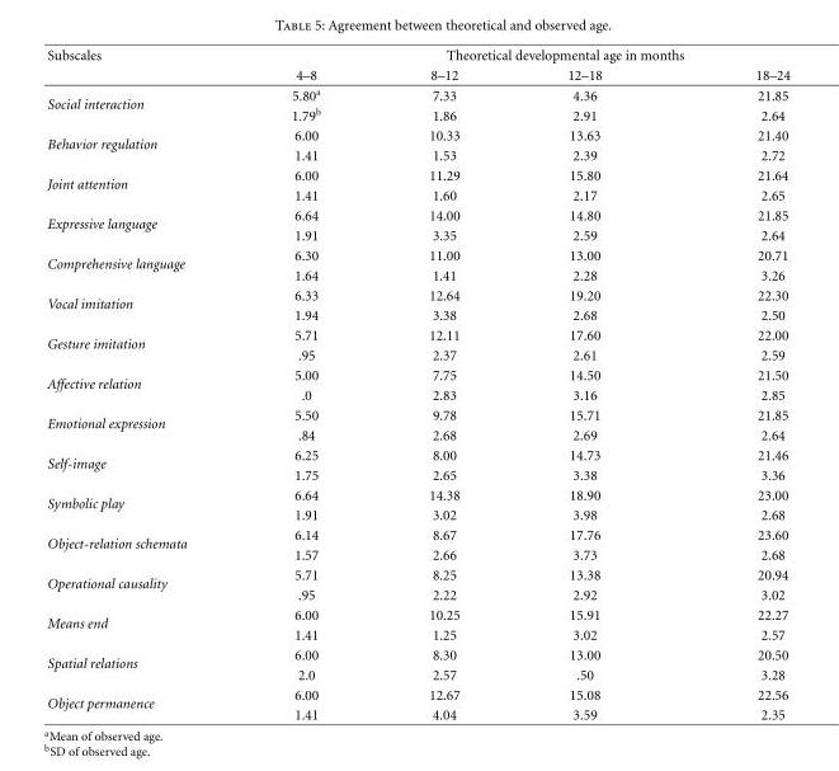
<table><thead><tr><td rowspan="2">Subscales</td><td colspan="4">Theoretical developmental age in months</td></tr><tr><td>4–8</td><td>8–12</td><td>12–18</td><td>18–24</td></tr></thead><tbody><tr><td rowspan="2">Social interaction</td><td>5.80<sup>a</sup></td><td>7.33</td><td>4.36</td><td>21.85</td></tr><tr><td>1.79<sup>b</sup></td><td>1.86</td><td>2.91</td><td>2.64</td></tr><tr><td rowspan="2">Behavior regulation</td><td>6.00</td><td>10.33</td><td>13.63</td><td>21.40</td></tr><tr><td>1.41</td><td>1.53</td><td>2.39</td><td>2.72</td></tr><tr><td rowspan="2">Joint attention</td><td>6.00</td><td>11.29</td><td>15.80</td><td>21.64</td></tr><tr><td>1.41</td><td>1.60</td><td>2.17</td><td>2.65</td></tr><tr><td rowspan="2">Expressive language</td><td>6.64</td><td>14.00</td><td>14.80</td><td>21.85</td></tr><tr><td>1.91</td><td>3.35</td><td>2.59</td><td>2.64</td></tr><tr><td rowspan="2">Comprehensive language</td><td>6.30</td><td>11.00</td><td>13.00</td><td>20.71</td></tr><tr><td>1.64</td><td>1.41</td><td>2.28</td><td>3.26</td></tr><tr><td rowspan="2">Vocal imitation</td><td>6.33</td><td>12.64</td><td>19.20</td><td>22.30</td></tr><tr><td>1.94</td><td>3.38</td><td>2.68</td><td>2.50</td></tr><tr><td rowspan="2">Gesture imitation</td><td>5.71</td><td>12.11</td><td>17.60</td><td>22.00</td></tr><tr><td>.95</td><td>2.37</td><td>2.61</td><td>2.59</td></tr><tr><td rowspan="2">Affective relation</td><td>5.00</td><td>7.75</td><td>14.50</td><td>21.50</td></tr><tr><td>.0</td><td>2.83</td><td>3.16</td><td>2.85</td></tr><tr><td rowspan="2">Emotional expression</td><td>5.50</td><td>9.78</td><td>15.71</td><td>21.85</td></tr><tr><td>.84</td><td>2.68</td><td>2.69</td><td>2.64</td></tr><tr><td rowspan="2">Self-image</td><td>6.25</td><td>8.00</td><td>14.73</td><td>21.46</td></tr><tr><td>1.75</td><td>2.65</td><td>3.38</td><td>3.36</td></tr><tr><td rowspan="2">Symbolic play</td><td>6.64</td><td>14.38</td><td>18.90</td><td>23.00</td></tr><tr><td>1.91</td><td>3.02</td><td>3.98</td><td>2.68</td></tr><tr><td rowspan="2">Object-relation schemata</td><td>6.14</td><td>8.67</td><td>17.76</td><td>23.60</td></tr><tr><td>1.57</td><td>2.66</td><td>3.73</td><td>2.68</td></tr><tr><td rowspan="2">Operational causality</td><td>5.71</td><td>8.25</td><td>13.38</td><td>20.94</td></tr><tr><td>.95</td><td>2.22</td><td>2.92</td><td>3.02</td></tr><tr><td rowspan="2">Means end</td><td>6.00</td><td>10.25</td><td>15.91</td><td>22.27</td></tr><tr><td>1.41</td><td>1.25</td><td>3.02</td><td>2.57</td></tr><tr><td rowspan="2">Spatial relations</td><td>6.00</td><td>8.30</td><td>13.00</td><td>20.50</td></tr><tr><td>2.0</td><td>2.57</td><td>.50</td><td>3.28</td></tr><tr><td rowspan="2">Object permanence</td><td>6.00</td><td>12.67</td><td>15.08</td><td>22.56</td></tr><tr><td>1.41</td><td>4.04</td><td>3.59</td><td>2.35</td></tr></tbody></table>